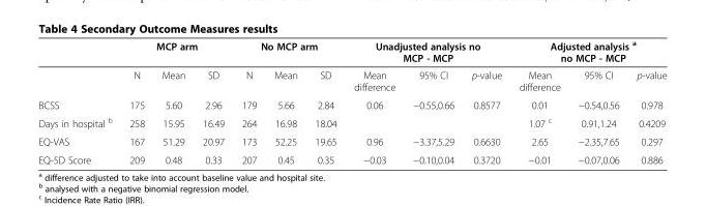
<table><thead><tr><td rowspan="2"></td><td colspan="3">MCP arm</td><td colspan="3">No MCP arm</td><td colspan="3">Unadjusted analysis no MCP - MCP</td><td colspan="3">Adjusted analysis <sup>a</sup> no MCP - MCP</td></tr><tr><td>N</td><td>Mean</td><td>SD</td><td>N</td><td>Mean</td><td>SD</td><td>Mean difference</td><td>95% CI</td><td>p-value</td><td>Mean difference</td><td>95% CI</td><td>p-value</td></tr></thead><tbody><tr><td>BCSS</td><td>175</td><td>5.60</td><td>2.96</td><td>179</td><td>5.66</td><td>2.84</td><td>0.06</td><td>−0.55,0.66</td><td>0.8577</td><td>0.01</td><td>−0.54,0.56</td><td>0.978</td></tr><tr><td>Days in hospital <sup>b</sup></td><td>258</td><td>15.95</td><td>16.49</td><td>264</td><td>16.98</td><td>18.04</td><td></td><td></td><td></td><td>1.07 <sup>c</sup></td><td>0.91,1.24</td><td>0.4209</td></tr><tr><td>EQ-VAS</td><td>167</td><td>51.29</td><td>20.97</td><td>173</td><td>52.25</td><td>19.65</td><td>0.96</td><td>−3.37,5.29</td><td>0.6630</td><td>2.65</td><td>−2.35,7.65</td><td>0.297</td></tr><tr><td>EQ-5D Score</td><td>209</td><td>0.48</td><td>0.33</td><td>207</td><td>0.45</td><td>0.35</td><td>−0.03</td><td>−0.10,0.04</td><td>0.3720</td><td>−0.01</td><td>−0.07,0.06</td><td>0.886</td></tr></tbody></table>